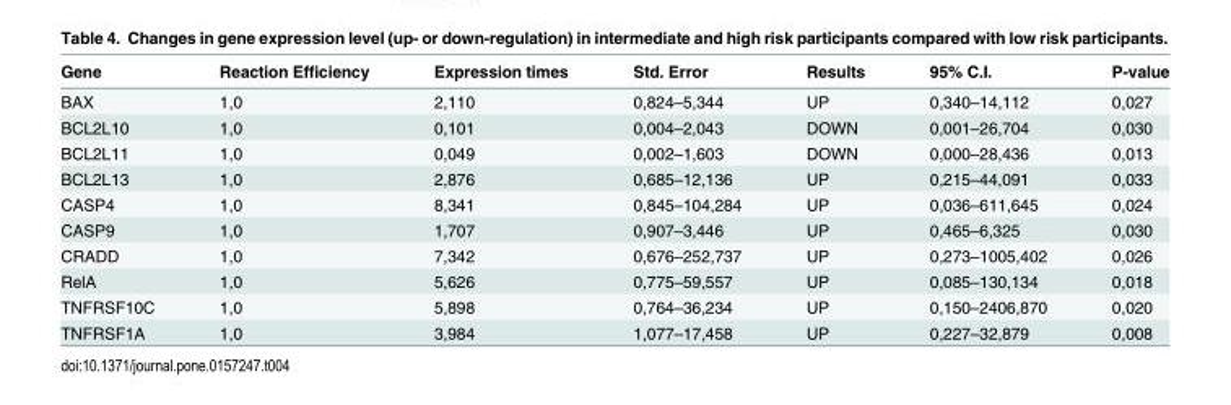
<table><thead><tr><td>Gene</td><td>Reaction Efficiency</td><td>Expression times</td><td>Std. Error</td><td>Results</td><td>95% C.I.</td><td>P-value</td></tr></thead><tbody><tr><td>BAX</td><td>1,0</td><td>2,110</td><td>0,824–5,344</td><td>UP</td><td>0,340–14,112</td><td>0,027</td></tr><tr><td>BCL2L10</td><td>1,0</td><td>0,101</td><td>0,004–2,043</td><td>DOWN</td><td>0,001–26,704</td><td>0,030</td></tr><tr><td>BCL2L11</td><td>1,0</td><td>0,049</td><td>0,002–1,603</td><td>DOWN</td><td>0,000–28,436</td><td>0,013</td></tr><tr><td>BCL2L13</td><td>1,0</td><td>2,876</td><td>0,685–12,136</td><td>UP</td><td>0,215–44,091</td><td>0,033</td></tr><tr><td>CASP4</td><td>1,0</td><td>8,341</td><td>0,845–104,284</td><td>UP</td><td>0,036–611,645</td><td>0,024</td></tr><tr><td>CASP9</td><td>1,0</td><td>1,707</td><td>0,907–3,446</td><td>UP</td><td>0,465–6,325</td><td>0,030</td></tr><tr><td>CRADD</td><td>1,0</td><td>7,342</td><td>0,676–252,737</td><td>UP</td><td>0,273–1005,402</td><td>0,026</td></tr><tr><td>RelA</td><td>1,0</td><td>5,626</td><td>0,775–59,557</td><td>UP</td><td>0,085–130,134</td><td>0,018</td></tr><tr><td>TNFRSF10C</td><td>1,0</td><td>5,898</td><td>0,764–36,234</td><td>UP</td><td>0,150–2406,870</td><td>0,020</td></tr><tr><td>TNFRSF1A</td><td>1,0</td><td>3,984</td><td>1,077–17,458</td><td>UP</td><td>0,227–32,879</td><td>0,008</td></tr></tbody></table>